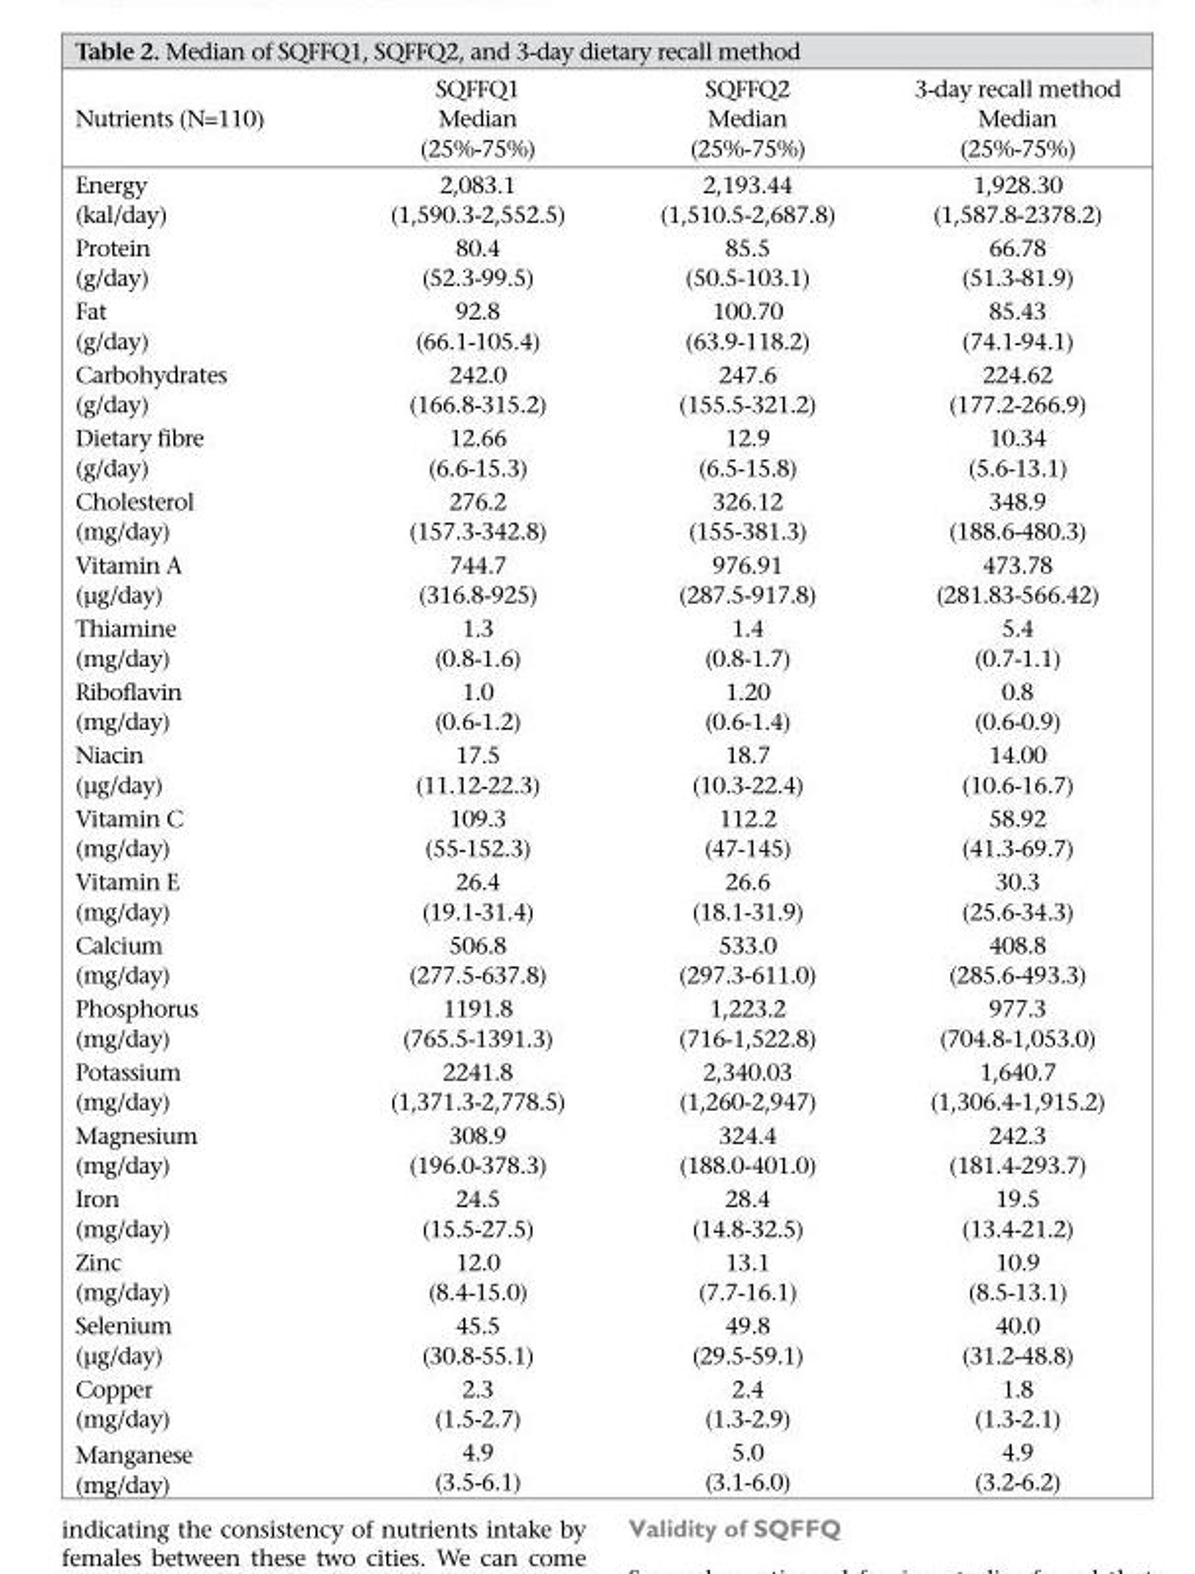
<table><thead><tr><td>Nutrients (N=110)</td><td>SQFFQ1 Median (25%-75%)</td><td>SQFFQ2 Median (25%-75%)</td><td>3-day recall method Median (25%-75%)</td></tr></thead><tbody><tr><td>Energy (kal/day)</td><td>2,083.1 (1,590.3-2,552.5)</td><td>2,193.44 (1,510.5-2,687.8)</td><td>1,928.30 (1,587.8-2378.2)</td></tr><tr><td>Protein (g/day)</td><td>80.4 (52.3-99.5)</td><td>85.5 (50.5-103.1)</td><td>66.78 (51.3-81.9)</td></tr><tr><td>Fat (g/day)</td><td>92.8 (66.1-105.4)</td><td>100.70 (63.9-118.2)</td><td>85.43 (74.1-94.1)</td></tr><tr><td>Carbohydrates (g/day)</td><td>242.0 (166.8-315.2)</td><td>247.6 (155.5-321.2)</td><td>224.62 (177.2-266.9)</td></tr><tr><td>Dietary fibre (g/day)</td><td>12.66 (6.6-15.3)</td><td>12.9 (6.5-15.8)</td><td>10.34 (5.6-13.1)</td></tr><tr><td>Cholesterol (mg/day)</td><td>276.2 (157.3-342.8)</td><td>326.12 (155-381.3)</td><td>348.9 (188.6-480.3)</td></tr><tr><td>Vitamin A (µg/day)</td><td>744.7 (316.8-925)</td><td>976.91 (287.5-917.8)</td><td>473.78 (281.83-566.42)</td></tr><tr><td>Thiamine (mg/day)</td><td>1.3 (0.8-1.6)</td><td>1.4 (0.8-1.7)</td><td>5.4 (0.7-1.1)</td></tr><tr><td>Riboflavin (mg/day)</td><td>1.0 (0.6-1.2)</td><td>1.20 (0.6-1.4)</td><td>0.8 (0.6-0.9)</td></tr><tr><td>Niacin (µg/day)</td><td>17.5 (11.12-22.3)</td><td>18.7 (10.3-22.4)</td><td>14.00 (10.6-16.7)</td></tr><tr><td>Vitamin C (mg/day)</td><td>109.3 (55-152.3)</td><td>112.2 (47-145)</td><td>58.92 (41.3-69.7)</td></tr><tr><td>Vitamin E (mg/day)</td><td>26.4 (19.1-31.4)</td><td>26.6 (18.1-31.9)</td><td>30.3 (25.6-34.3)</td></tr><tr><td>Calcium (mg/day)</td><td>506.8 (277.5-637.8)</td><td>533.0 (297.3-611.0)</td><td>408.8 (285.6-493.3)</td></tr><tr><td>Phosphorus (mg/day)</td><td>1191.8 (765.5-1391.3)</td><td>1,223.2 (716-1,522.8)</td><td>977.3 (704.8-1,053.0)</td></tr><tr><td>Potassium (mg/day)</td><td>2241.8 (1,371.3-2,778.5)</td><td>2,340.03 (1,260-2,947)</td><td>1,640.7 (1,306.4-1,915.2)</td></tr><tr><td>Magnesium (mg/day)</td><td>308.9 (196.0-378.3)</td><td>324.4 (188.0-401.0)</td><td>242.3 (181.4-293.7)</td></tr><tr><td>Iron (mg/day)</td><td>24.5 (15.5-27.5)</td><td>28.4 (14.8-32.5)</td><td>19.5 (13.4-21.2)</td></tr><tr><td>Zinc (mg/day)</td><td>12.0 (8.4-15.0)</td><td>13.1 (7.7-16.1)</td><td>10.9 (8.5-13.1)</td></tr><tr><td>Selenium (µg/day)</td><td>45.5 (30.8-55.1)</td><td>49.8 (29.5-59.1)</td><td>40.0 (31.2-48.8)</td></tr><tr><td>Copper (mg/day)</td><td>2.3 (1.5-2.7)</td><td>2.4 (1.3-2.9)</td><td>1.8 (1.3-2.1)</td></tr><tr><td>Manganese (mg/day)</td><td>4.9 (3.5-6.1)</td><td>5.0 (3.1-6.0)</td><td>4.9 (3.2-6.2)</td></tr></tbody></table>